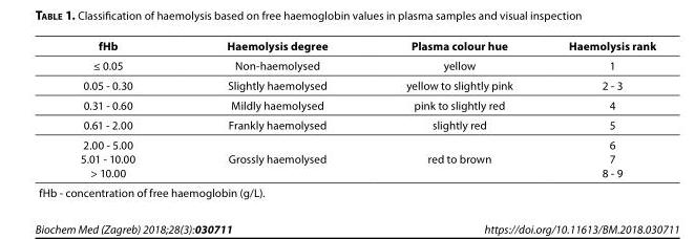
<table><thead><tr><td>fHb</td><td>Haemolysis degree</td><td>Plasma colour hue</td><td>Haemolysis rank</td></tr></thead><tbody><tr><td>≤ 0.05</td><td>Non-haemolysed</td><td>yellow</td><td>1</td></tr><tr><td>0.05 - 0.30</td><td>Slightly haemolysed</td><td>yellow to slightly pink</td><td>2 - 3</td></tr><tr><td>0.31 - 0.60</td><td>Mildly haemolysed</td><td>pink to slightly red</td><td>4</td></tr><tr><td>0.61 - 2.00</td><td>Frankly haemolysed</td><td>slightly red</td><td>5</td></tr><tr><td>2.00 - 5.00 5.01 - 10.00 &gt; 10.00</td><td>Grossly haemolysed</td><td>red to brown</td><td>6 7 8 - 9</td></tr><tr><td colspan="4">fHb - concentration of free haemoglobin (g/L).</td></tr></tbody></table>